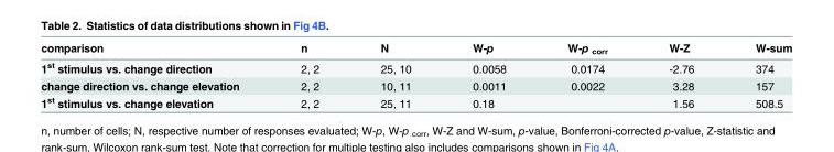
<table><thead><tr><td>comparison</td><td>n</td><td>N</td><td>W-p</td><td>W-p <sub>corr</sub></td><td>W-Z</td><td>W-sum</td></tr></thead><tbody><tr><td>1<sup>st</sup> stimulus vs. change direction</td><td>2, 2</td><td>25, 10</td><td>0.0058</td><td>0.0174</td><td>-2.76</td><td>374</td></tr><tr><td>change direction vs. change elevation</td><td>2, 2</td><td>10, 11</td><td>0.0011</td><td>0.0022</td><td>3.28</td><td>157</td></tr><tr><td>1<sup>st</sup> stimulus vs. change elevation</td><td>2, 2</td><td>25, 11</td><td>0.18</td><td></td><td>1.56</td><td>508.5</td></tr></tbody></table>